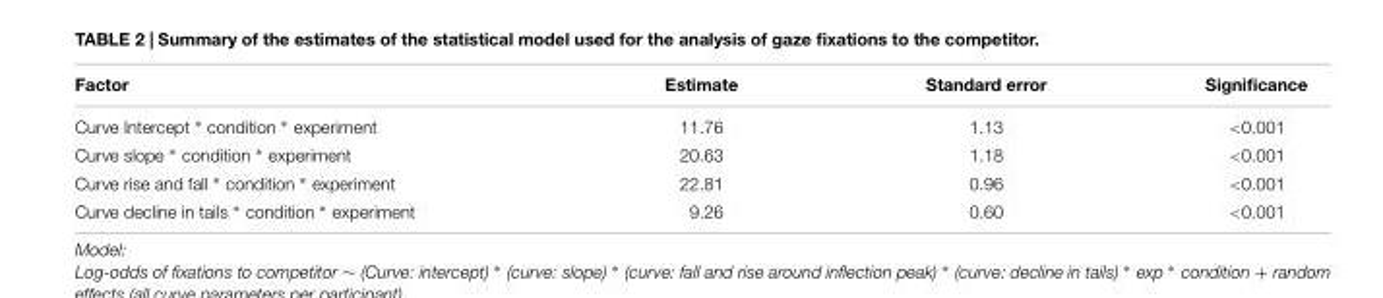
<table><thead><tr><td>Factor</td><td>Estimate</td><td>Standard error</td><td>Significance</td></tr></thead><tbody><tr><td>Curve Intercept ∗ condition ∗ experiment</td><td>11.76</td><td>1.13</td><td>&lt;0.001</td></tr><tr><td>Curve slope ∗ condition ∗ experiment</td><td>20.63</td><td>1.18</td><td>&lt;0.001</td></tr><tr><td>Curve rise and fall ∗ condition ∗ experiment</td><td>22.81</td><td>0.96</td><td>&lt;0.001</td></tr><tr><td>Curve decline in tails ∗ condition ∗ experiment</td><td>9.26</td><td>0.60</td><td>&lt;0.001</td></tr></tbody></table>